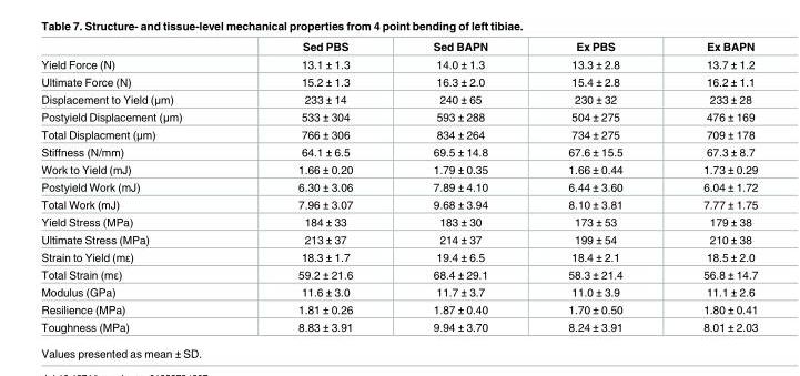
<table><thead><tr><td></td><td>Sed PBS</td><td>Sed BAPN</td><td>Ex PBS</td><td>Ex BAPN</td></tr></thead><tbody><tr><td>Yield Force (N)</td><td>13.1 ± 1.3</td><td>14.0 ± 1.3</td><td>13.3 ± 2.8</td><td>13.7 ± 1.2</td></tr><tr><td>Ultimate Force (N)</td><td>15.2 ± 1.3</td><td>16.3 ± 2.0</td><td>15.4 ± 2.8</td><td>16.2 ± 1.1</td></tr><tr><td>Displacement to Yield (μm)</td><td>233 ± 14</td><td>240 ± 65</td><td>230 ± 32</td><td>233 ± 28</td></tr><tr><td>Postyield Displacement (μm)</td><td>533 ± 304</td><td>593 ± 288</td><td>504 ± 275</td><td>476 ± 169</td></tr><tr><td>Total Displacment (μm)</td><td>766 ± 306</td><td>834 ± 264</td><td>734 ± 275</td><td>709 ± 178</td></tr><tr><td>Stiffness (N/mm)</td><td>64.1 ± 6.5</td><td>69.5 ± 14.8</td><td>67.6 ± 15.5</td><td>67.3 ± 8.7</td></tr><tr><td>Work to Yield (mJ)</td><td>1.66 ± 0.20</td><td>1.79 ± 0.35</td><td>1.66 ± 0.44</td><td>1.73 ± 0.29</td></tr><tr><td>Postyield Work (mJ)</td><td>6.30 ± 3.06</td><td>7.89 ± 4.10</td><td>6.44 ± 3.60</td><td>6.04 ± 1.72</td></tr><tr><td>Total Work (mJ)</td><td>7.96 ± 3.07</td><td>9.68 ± 3.94</td><td>8.10 ± 3.81</td><td>7.77 ± 1.75</td></tr><tr><td>Yield Stress (MPa)</td><td>184 ± 33</td><td>183 ± 30</td><td>173 ± 53</td><td>179 ± 38</td></tr><tr><td>Ultimate Stress (MPa)</td><td>213 ± 37</td><td>214 ± 37</td><td>199 ± 54</td><td>210 ± 38</td></tr><tr><td>Strain to Yield (mε)</td><td>18.3 ± 1.7</td><td>19.4 ± 6.5</td><td>18.4 ± 2.1</td><td>18.5 ± 2.0</td></tr><tr><td>Total Strain (mε)</td><td>59.2 ± 21.6</td><td>68.4 ± 29.1</td><td>58.3 ± 21.4</td><td>56.8 ± 14.7</td></tr><tr><td>Modulus (GPa)</td><td>11.6 ± 3.0</td><td>11.7 ± 3.7</td><td>11.0 ± 3.9</td><td>11.1 ± 2.6</td></tr><tr><td>Resilience (MPa)</td><td>1.81 ± 0.26</td><td>1.87 ± 0.40</td><td>1.70 ± 0.50</td><td>1.80 ± 0.41</td></tr><tr><td>Toughness (MPa)</td><td>8.83 ± 3.91</td><td>9.94 ± 3.70</td><td>8.24 ± 3.91</td><td>8.01 ± 2.03</td></tr></tbody></table>